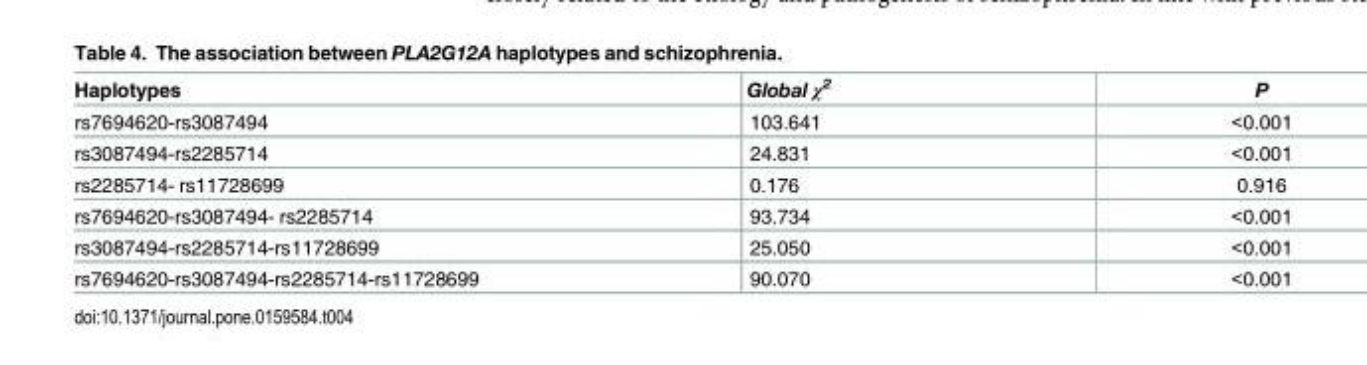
<table><thead><tr><td>Haplotypes</td><td>Global χ<sup>2</sup></td><td>P</td></tr></thead><tbody><tr><td>rs7694620-rs3087494</td><td>103.641</td><td>&lt;0.001</td></tr><tr><td>rs3087494-rs2285714</td><td>24.831</td><td>&lt;0.001</td></tr><tr><td>rs2285714- rs11728699</td><td>0.176</td><td>0.916</td></tr><tr><td>rs7694620-rs3087494- rs2285714</td><td>93.734</td><td>&lt;0.001</td></tr><tr><td>rs3087494-rs2285714-rs11728699</td><td>25.050</td><td>&lt;0.001</td></tr><tr><td>rs7694620-rs3087494-rs2285714-rs11728699</td><td>90.070</td><td>&lt;0.001</td></tr></tbody></table>